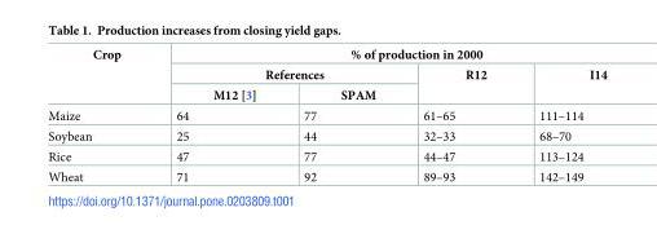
<table><thead><tr><td rowspan="3">Crop</td><td colspan="4">% of production in 2000</td></tr><tr><td colspan="2">References</td><td rowspan="2">R12</td><td rowspan="2">I14</td></tr><tr><td>M12 [3]</td><td>SPAM</td></tr></thead><tbody><tr><td>Maize</td><td>64</td><td>77</td><td>61–65</td><td>111–114</td></tr><tr><td>Soybean</td><td>25</td><td>44</td><td>32–33</td><td>68–70</td></tr><tr><td>Rice</td><td>47</td><td>77</td><td>44–47</td><td>113–124</td></tr><tr><td>Wheat</td><td>71</td><td>92</td><td>89–93</td><td>142–149</td></tr></tbody></table>